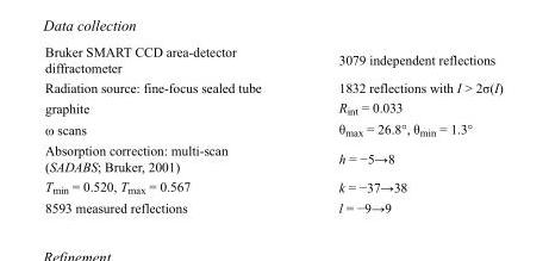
<table><tbody><tr><td>Bruker SMART CCD area-detector diffractometer</td><td>3079 independent reflections</td></tr><tr><td>Radiation source: fine-focus sealed tube</td><td>1832 reflections with I &gt; 2σ(I)</td></tr><tr><td>graphite</td><td>R<sub>int</sub> = 0.033</td></tr><tr><td>ω scans</td><td>θ<sub>max</sub> = 26.8°, θ<sub>min</sub> = 1.3°</td></tr><tr><td>Absorption correction: multi-scan (SADABS; Bruker, 2001)</td><td>h = −5→8</td></tr><tr><td>T<sub>min</sub> = 0.520, T<sub>max</sub> = 0.567</td><td>k = −37→38</td></tr><tr><td>8593 measured reflections</td><td>l = −9→9</td></tr></tbody></table>